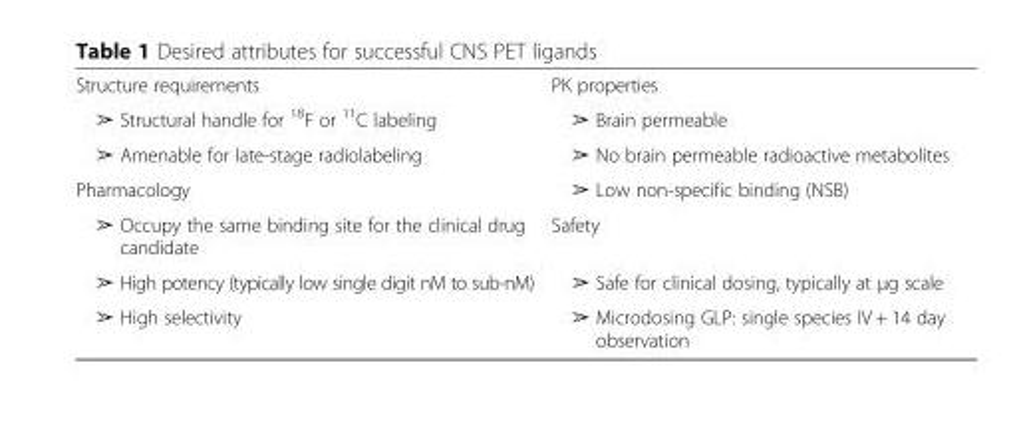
<table><tbody><tr><td>Structure requirements</td><td>PK properties</td></tr><tr><td>➢ Structural handle for <sup>18</sup>F or <sup>11</sup>C labeling</td><td>➢ Brain permeable</td></tr><tr><td>➢ Amenable for late-stage radiolabeling</td><td>➢ No brain permeable radioactive metabolites</td></tr><tr><td>Pharmacology</td><td>➢ Low non-specific binding (NSB)</td></tr><tr><td>➢ Occupy the same binding site for the clinical drug candidate</td><td>Safety</td></tr><tr><td>➢ High potency (typically low single digit nM to sub-nM)</td><td>➢ Safe for clinical dosing, typically at μg scale</td></tr><tr><td>➢ High selectivity</td><td>➢ Microdosing GLP: single species IV + 14 day observation</td></tr></tbody></table>